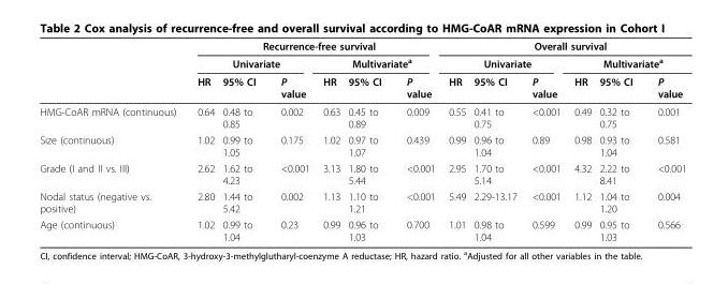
<table><thead><tr><td rowspan="3"></td><td colspan="6">Recurrence-free survival</td><td colspan="6">Overall survival</td></tr><tr><td colspan="3">Univariate</td><td colspan="3">Multivariate<sup>a</sup></td><td colspan="3">Univariate</td><td colspan="3">Multivariate<sup>a</sup></td></tr><tr><td>HR</td><td>95% CI</td><td>P value</td><td>HR</td><td>95% CI</td><td>P value</td><td>HR</td><td>95% CI</td><td>P value</td><td>HR</td><td>95% CI</td><td>P value</td></tr></thead><tbody><tr><td>HMG-CoAR mRNA (continuous)</td><td>0.64</td><td>0.48 to 0.85</td><td>0.002</td><td>0.63</td><td>0.45 to 0.89</td><td>0.009</td><td>0.55</td><td>0.41 to 0.75</td><td>&lt;0.001</td><td>0.49</td><td>0.32 to 0.75</td><td>0.001</td></tr><tr><td>Size (continuous)</td><td>1.02</td><td>0.99 to 1.05</td><td>0.175</td><td>1.02</td><td>0.97 to 1.07</td><td>0.439</td><td>0.99</td><td>0.96 to 1.04</td><td>0.89</td><td>0.98</td><td>0.93 to 1.04</td><td>0.581</td></tr><tr><td>Grade (I and II vs. III)</td><td>2.62</td><td>1.62 to 4.23</td><td>&lt;0.001</td><td>3.13</td><td>1.80 to 5.44</td><td>&lt;0.001</td><td>2.95</td><td>1.70 to 5.14</td><td>&lt;0.001</td><td>4.32</td><td>2.22 to 8.41</td><td>&lt;0.001</td></tr><tr><td>Nodal status (negative vs. positive)</td><td>2.80</td><td>1.44 to 5.42</td><td>0.002</td><td>1.13</td><td>1.10 to 1.21</td><td>&lt;0.001</td><td>5.49</td><td>2.29-13.17</td><td>&lt;0.001</td><td>1.12</td><td>1.04 to 1.20</td><td>0.004</td></tr><tr><td>Age (continuous)</td><td>1.02</td><td>0.99 to 1.04</td><td>0.23</td><td>0.99</td><td>0.96 to 1.03</td><td>0.700</td><td>1.01</td><td>0.98 to 1.04</td><td>0.599</td><td>0.99</td><td>0.95 to 1.03</td><td>0.566</td></tr></tbody></table>